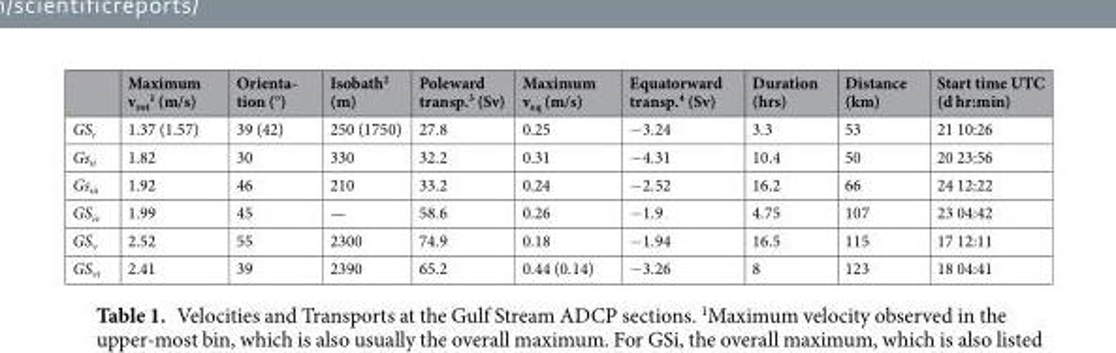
<table><thead><tr><td></td><td>Maximum v<sub>rot</sub> <sup>1</sup> (m/s)</td><td>Orienta- tion (°)</td><td>Isobath<sup>2</sup> (m)</td><td>Poleward transp.<sup>3</sup> (Sv)</td><td>Maximum v<sub>eq</sub> (m/s)</td><td>Equatorward transp.<sup>4</sup> (Sv)</td><td>Duration (hrs)</td><td>Distance (km)</td><td>Start time UTC (d hr:min)</td></tr></thead><tbody><tr><td>GS<sub>i</sub></td><td>1.37 (1.57)</td><td>39 (42)</td><td>250 (1750)</td><td>27.8</td><td>0.25</td><td>−3.24</td><td>3.3</td><td>53</td><td>21 10:26</td></tr><tr><td>Gs<sub>ii</sub></td><td>1.82</td><td>30</td><td>330</td><td>32.2</td><td>0.31</td><td>−4.31</td><td>10.4</td><td>50</td><td>20 23:56</td></tr><tr><td>Gs<sub>iii</sub></td><td>1.92</td><td>46</td><td>210</td><td>33.2</td><td>0.24</td><td>−2.52</td><td>16.2</td><td>66</td><td>24 12:22</td></tr><tr><td>GS<sub>iv</sub></td><td>1.99</td><td>45</td><td>—</td><td>58.6</td><td>0.26</td><td>−1.9</td><td>4.75</td><td>107</td><td>23 04:42</td></tr><tr><td>GS<sub>v</sub></td><td>2.52</td><td>55</td><td>2300</td><td>74.9</td><td>0.18</td><td>−1.94</td><td>16.5</td><td>115</td><td>17 12:11</td></tr><tr><td>GS<sub>vi</sub></td><td>2.41</td><td>39</td><td>2390</td><td>65.2</td><td>0.44 (0.14)</td><td>−3.26</td><td>8</td><td>123</td><td>18 04:41</td></tr></tbody></table>